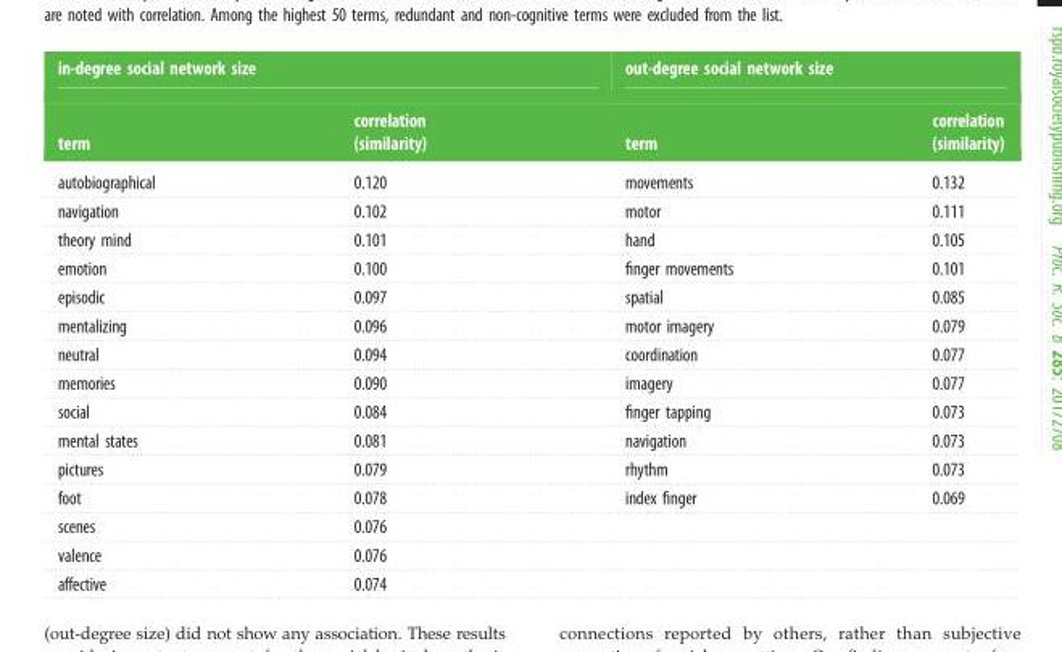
<table><thead><tr><td colspan="2">in-degree social network size</td><td colspan="2">out-degree social network size</td></tr><tr><td>term</td><td>correlation (similarity)</td><td>term</td><td>correlation (similarity)</td></tr></thead><tbody><tr><td>autobiographical</td><td>0.120</td><td>movements</td><td>0.132</td></tr><tr><td>navigation</td><td>0.102</td><td>motor</td><td>0.111</td></tr><tr><td>theory mind</td><td>0.101</td><td>hand</td><td>0.105</td></tr><tr><td>emotion</td><td>0.100</td><td>finger movements</td><td>0.101</td></tr><tr><td>episodic</td><td>0.097</td><td>spatial</td><td>0.085</td></tr><tr><td>mentalizing</td><td>0.096</td><td>motor imagery</td><td>0.079</td></tr><tr><td>neutral</td><td>0.094</td><td>coordination</td><td>0.077</td></tr><tr><td>memories</td><td>0.090</td><td>imagery</td><td>0.077</td></tr><tr><td>social</td><td>0.084</td><td>finger tapping</td><td>0.073</td></tr><tr><td>mental states</td><td>0.081</td><td>navigation</td><td>0.073</td></tr><tr><td>pictures</td><td>0.079</td><td>rhythm</td><td>0.073</td></tr><tr><td>foot</td><td>0.078</td><td>index finger</td><td>0.069</td></tr><tr><td>scenes</td><td>0.076</td><td></td><td></td></tr><tr><td>valence</td><td>0.076</td><td></td><td></td></tr><tr><td>affective</td><td>0.074</td><td></td><td></td></tr></tbody></table>